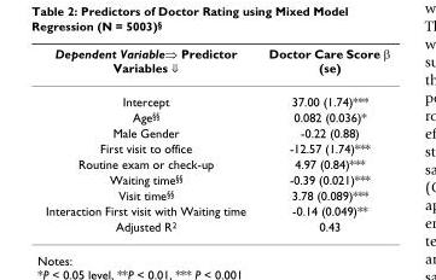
<table><thead><tr><td>Dependent Variable⇒ Predictor Variables ‡</td><td>Doctor Care Score β (se)</td></tr></thead><tbody><tr><td>Intercept</td><td>37.00 (1.74)***</td></tr><tr><td>Age<sup>§§</sup></td><td>0.082 (0.036)*</td></tr><tr><td>Male Gender</td><td>-0.22 (0.88)</td></tr><tr><td>First visit to office</td><td>-12.57 (1.74)***</td></tr><tr><td>Routine exam or check-up</td><td>4.97 (0.84)***</td></tr><tr><td>Waiting time<sup>§§</sup></td><td>-0.39 (0.021)***</td></tr><tr><td>Visit time<sup>§§</sup></td><td>3.78 (0.089)***</td></tr><tr><td>Interaction First visit with Waiting time</td><td>-0.14 (0.049)**</td></tr><tr><td>Adjusted R<sup>2</sup></td><td>0.43</td></tr></tbody></table>